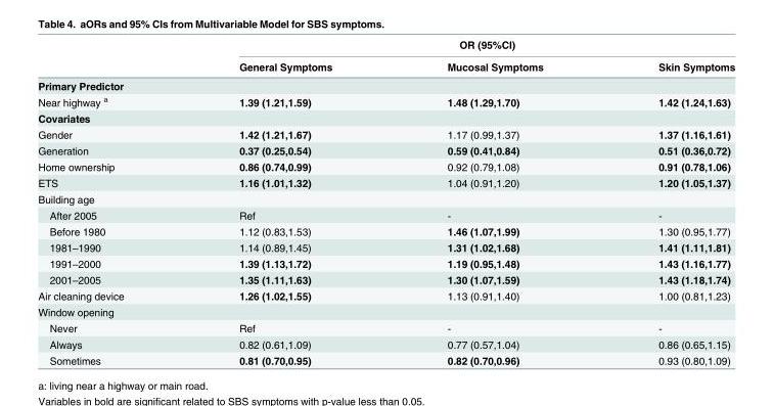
<table><thead><tr><td rowspan="2"></td><td colspan="3">OR (95%CI)</td></tr><tr><td>General Symptoms</td><td>Mucosal Symptoms</td><td>Skin Symptoms</td></tr></thead><tbody><tr><td colspan="4">Primary Predictor</td></tr><tr><td>Near highway <sup>a</sup></td><td>1.39 (1.21,1.59)</td><td>1.48 (1.29,1.70)</td><td>1.42 (1.24,1.63)</td></tr><tr><td colspan="4">Covariates</td></tr><tr><td>Gender</td><td>1.42 (1.21,1.67)</td><td>1.17 (0.99,1.37)</td><td>1.37 (1.16,1.61)</td></tr><tr><td>Generation</td><td>0.37 (0.25,0.54)</td><td>0.59 (0.41,0.84)</td><td>0.51 (0.36,0.72)</td></tr><tr><td>Home ownership</td><td>0.86 (0.74,0.99)</td><td>0.92 (0.79,1.08)</td><td>0.91 (0.78,1.06)</td></tr><tr><td>ETS</td><td>1.16 (1.01,1.32)</td><td>1.04 (0.91,1.20)</td><td>1.20 (1.05,1.37)</td></tr><tr><td colspan="4">Building age</td></tr><tr><td>After 2005</td><td>Ref</td><td>-</td><td>-</td></tr><tr><td>Before 1980</td><td>1.12 (0.83,1.53)</td><td>1.46 (1.07,1.99)</td><td>1.30 (0.95,1.77)</td></tr><tr><td>1981–1990</td><td>1.14 (0.89,1.45)</td><td>1.31 (1.02,1.68)</td><td>1.41 (1.11,1.81)</td></tr><tr><td>1991–2000</td><td>1.39 (1.13,1.72)</td><td>1.19 (0.95,1.48)</td><td>1.43 (1.16,1.77)</td></tr><tr><td>2001–2005</td><td>1.35 (1.11,1.63)</td><td>1.30 (1.07,1.59)</td><td>1.43 (1.18,1.74)</td></tr><tr><td>Air cleaning device</td><td>1.26 (1.02,1.55)</td><td>1.13 (0.91,1.40)</td><td>1.00 (0.81,1.23)</td></tr><tr><td colspan="4">Window opening</td></tr><tr><td>Never</td><td>Ref</td><td>-</td><td>-</td></tr><tr><td>Always</td><td>0.82 (0.61,1.09)</td><td>0.77 (0.57,1.04)</td><td>0.86 (0.65,1.15)</td></tr><tr><td>Sometimes</td><td>0.81 (0.70,0.95)</td><td>0.82 (0.70,0.96)</td><td>0.93 (0.80,1.09)</td></tr></tbody></table>